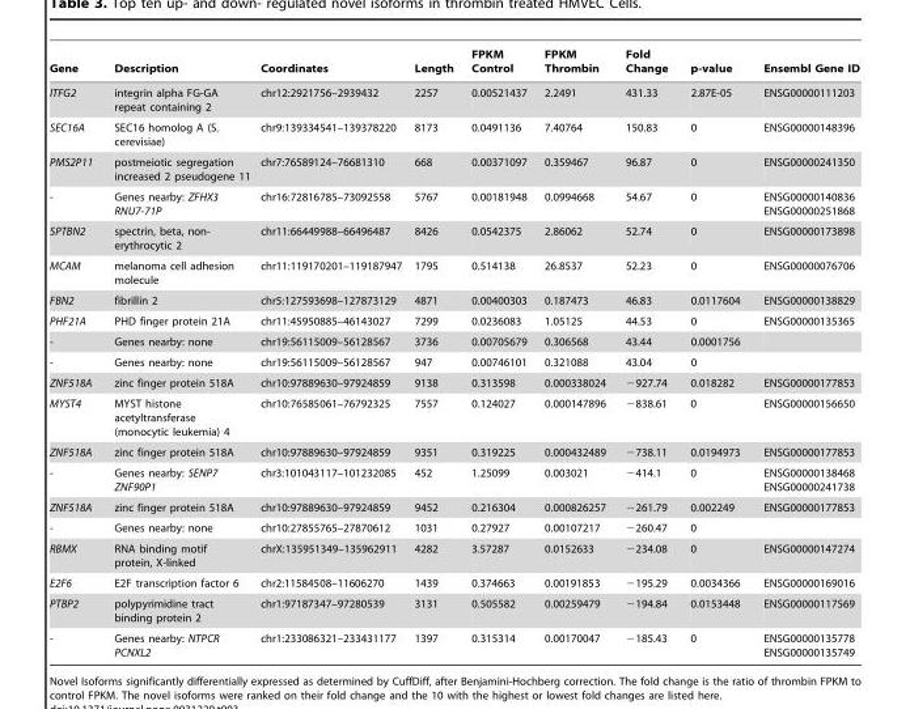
<table><thead><tr><td>Gene</td><td>Description</td><td>Coordinates</td><td>Length</td><td>FPKM Control</td><td>FPKM Thrombin</td><td>Fold Change</td><td>p-value</td><td>Ensembl Gene ID</td></tr></thead><tbody><tr><td>ITFG2</td><td>integrin alpha FG-GA repeat containing 2</td><td>chr12:2921756–2939432</td><td>2257</td><td>0.00521437</td><td>2.2491</td><td>431.33</td><td>2.87E-05</td><td>ENSG00000111203</td></tr><tr><td>SEC16A</td><td>SEC16 homolog A (S. cerevisiae)</td><td>chr9:139334541–139378220</td><td>8173</td><td>0.0491136</td><td>7.40764</td><td>150.83</td><td>0</td><td>ENSG00000148396</td></tr><tr><td>PMS2P11</td><td>postmeiotic segregation increased 2 pseudogene 11</td><td>chr7:76589124–76681310</td><td>668</td><td>0.00371097</td><td>0.359467</td><td>96.87</td><td>0</td><td>ENSG00000241350</td></tr><tr><td>-</td><td>Genes nearby: ZFHX3 RNU7-71P</td><td>chr16:72816785–73092558</td><td>5767</td><td>0.00181948</td><td>0.0994668</td><td>54.67</td><td>0</td><td>ENSG00000140836 ENSG00000251868</td></tr><tr><td>SPTBN2</td><td>spectrin, beta, non- erythrocytic 2</td><td>chr11:66449988–66496487</td><td>8426</td><td>0.0542375</td><td>2.86062</td><td>52.74</td><td>0</td><td>ENSG00000173898</td></tr><tr><td>MCAM</td><td>melanoma cell adhesion molecule</td><td>chr11:119170201–119187947</td><td>1795</td><td>0.514138</td><td>26.8537</td><td>52.23</td><td>0</td><td>ENSG00000076706</td></tr><tr><td>FBN2</td><td>fibrillin 2</td><td>chr5:127593698–127873129</td><td>4871</td><td>0.00400303</td><td>0.187473</td><td>46.83</td><td>0.0117604</td><td>ENSG00000138829</td></tr><tr><td>PHF21A</td><td>PHD finger protein 21A</td><td>chr11:45950885–46143027</td><td>7299</td><td>0.0236083</td><td>1.05125</td><td>44.53</td><td>0</td><td>ENSG00000135365</td></tr><tr><td>-</td><td>Genes nearby: none</td><td>chr19:56115009–56128567</td><td>3736</td><td>0.00705679</td><td>0.306568</td><td>43.44</td><td>0.0001756</td><td></td></tr><tr><td>-</td><td>Genes nearby: none</td><td>chr19:56115009–56128567</td><td>947</td><td>0.00746101</td><td>0.321088</td><td>43.04</td><td>0</td><td></td></tr><tr><td>ZNF518A</td><td>zinc finger protein 518A</td><td>chr10:97889630–97924859</td><td>9138</td><td>0.313598</td><td>0.000338024</td><td>−927.74</td><td>0.018282</td><td>ENSG00000177853</td></tr><tr><td>MYST4</td><td>MYST histone acetyltransferase (monocytic leukemia) 4</td><td>chr10:76585061–76792325</td><td>7557</td><td>0.124027</td><td>0.000147896</td><td>−838.61</td><td>0</td><td>ENSG00000156650</td></tr><tr><td>ZNF518A</td><td>zinc finger protein 518A</td><td>chr10:97889630–97924859</td><td>9351</td><td>0.319225</td><td>0.000432489</td><td>−738.11</td><td>0.0194973</td><td>ENSG00000177853</td></tr><tr><td>-</td><td>Genes nearby: SENP7 ZNF90P1</td><td>chr3:101043117–101232085</td><td>452</td><td>1.25099</td><td>0.003021</td><td>−414.1</td><td>0</td><td>ENSG00000138468 ENSG00000241738</td></tr><tr><td>ZNF518A</td><td>zinc finger protein 518A</td><td>chr10:97889630–97924859</td><td>9452</td><td>0.216304</td><td>0.000826257</td><td>−261.79</td><td>0.002249</td><td>ENSG00000177853</td></tr><tr><td>-</td><td>Genes nearby: none</td><td>chr10:27855765–27870612</td><td>1031</td><td>0.27927</td><td>0.00107217</td><td>−260.47</td><td>0</td><td></td></tr><tr><td>RBMX</td><td>RNA binding motif protein, X-linked</td><td>chrX:135951349–135962911</td><td>4282</td><td>3.57287</td><td>0.0152633</td><td>−234.08</td><td>0</td><td>ENSG00000147274</td></tr><tr><td>E2F6</td><td>E2F transcription factor 6</td><td>chr2:11584508–11606270</td><td>1439</td><td>0.374663</td><td>0.00191853</td><td>−195.29</td><td>0.0034366</td><td>ENSG00000169016</td></tr><tr><td>PTBP2</td><td>polypyrimidine tract binding protein 2</td><td>chr1:97187347–97280539</td><td>3131</td><td>0.505582</td><td>0.00259479</td><td>−194.84</td><td>0.0153448</td><td>ENSG00000117569</td></tr><tr><td>-</td><td>Genes nearby: NTPCR PCNXL2</td><td>chr1:233086321–233431177</td><td>1397</td><td>0.315314</td><td>0.00170047</td><td>−185.43</td><td>0</td><td>ENSG00000135778 ENSG00000135749</td></tr></tbody></table>